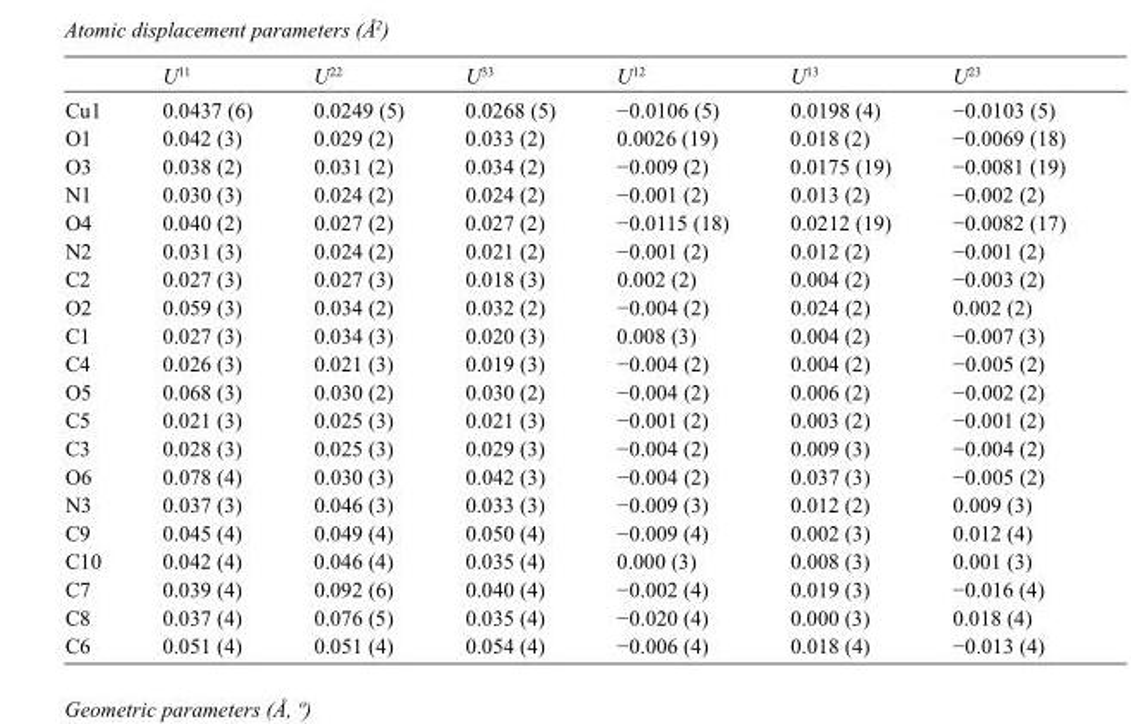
<table><thead><tr><td></td><td>U<sup>11</sup></td><td>U<sup>22</sup></td><td>U<sup>33</sup></td><td>U<sup>12</sup></td><td>U<sup>13</sup></td><td>U<sup>23</sup></td></tr></thead><tbody><tr><td>Cu1</td><td>0.0437 (6)</td><td>0.0249 (5)</td><td>0.0268 (5)</td><td>−0.0106 (5)</td><td>0.0198 (4)</td><td>−0.0103 (5)</td></tr><tr><td>O1</td><td>0.042 (3)</td><td>0.029 (2)</td><td>0.033 (2)</td><td>0.0026 (19)</td><td>0.018 (2)</td><td>−0.0069 (18)</td></tr><tr><td>O3</td><td>0.038 (2)</td><td>0.031 (2)</td><td>0.034 (2)</td><td>−0.009 (2)</td><td>0.0175 (19)</td><td>−0.0081 (19)</td></tr><tr><td>N1</td><td>0.030 (3)</td><td>0.024 (2)</td><td>0.024 (2)</td><td>−0.001 (2)</td><td>0.013 (2)</td><td>−0.002 (2)</td></tr><tr><td>O4</td><td>0.040 (2)</td><td>0.027 (2)</td><td>0.027 (2)</td><td>−0.0115 (18)</td><td>0.0212 (19)</td><td>−0.0082 (17)</td></tr><tr><td>N2</td><td>0.031 (3)</td><td>0.024 (2)</td><td>0.021 (2)</td><td>−0.001 (2)</td><td>0.012 (2)</td><td>−0.001 (2)</td></tr><tr><td>C2</td><td>0.027 (3)</td><td>0.027 (3)</td><td>0.018 (3)</td><td>0.002 (2)</td><td>0.004 (2)</td><td>−0.003 (2)</td></tr><tr><td>O2</td><td>0.059 (3)</td><td>0.034 (2)</td><td>0.032 (2)</td><td>−0.004 (2)</td><td>0.024 (2)</td><td>0.002 (2)</td></tr><tr><td>C1</td><td>0.027 (3)</td><td>0.034 (3)</td><td>0.020 (3)</td><td>0.008 (3)</td><td>0.004 (2)</td><td>−0.007 (3)</td></tr><tr><td>C4</td><td>0.026 (3)</td><td>0.021 (3)</td><td>0.019 (3)</td><td>−0.004 (2)</td><td>0.004 (2)</td><td>−0.005 (2)</td></tr><tr><td>O5</td><td>0.068 (3)</td><td>0.030 (2)</td><td>0.030 (2)</td><td>−0.004 (2)</td><td>0.006 (2)</td><td>−0.002 (2)</td></tr><tr><td>C5</td><td>0.021 (3)</td><td>0.025 (3)</td><td>0.021 (3)</td><td>−0.001 (2)</td><td>0.003 (2)</td><td>−0.001 (2)</td></tr><tr><td>C3</td><td>0.028 (3)</td><td>0.025 (3)</td><td>0.029 (3)</td><td>−0.004 (2)</td><td>0.009 (3)</td><td>−0.004 (2)</td></tr><tr><td>O6</td><td>0.078 (4)</td><td>0.030 (3)</td><td>0.042 (3)</td><td>−0.004 (2)</td><td>0.037 (3)</td><td>−0.005 (2)</td></tr><tr><td>N3</td><td>0.037 (3)</td><td>0.046 (3)</td><td>0.033 (3)</td><td>−0.009 (3)</td><td>0.012 (2)</td><td>0.009 (3)</td></tr><tr><td>C9</td><td>0.045 (4)</td><td>0.049 (4)</td><td>0.050 (4)</td><td>−0.009 (4)</td><td>0.002 (3)</td><td>0.012 (4)</td></tr><tr><td>C10</td><td>0.042 (4)</td><td>0.046 (4)</td><td>0.035 (4)</td><td>0.000 (3)</td><td>0.008 (3)</td><td>0.001 (3)</td></tr><tr><td>C7</td><td>0.039 (4)</td><td>0.092 (6)</td><td>0.040 (4)</td><td>−0.002 (4)</td><td>0.019 (3)</td><td>−0.016 (4)</td></tr><tr><td>C8</td><td>0.037 (4)</td><td>0.076 (5)</td><td>0.035 (4)</td><td>−0.020 (4)</td><td>0.000 (3)</td><td>0.018 (4)</td></tr><tr><td>C6</td><td>0.051 (4)</td><td>0.051 (4)</td><td>0.054 (4)</td><td>−0.006 (4)</td><td>0.018 (4)</td><td>−0.013 (4)</td></tr></tbody></table>